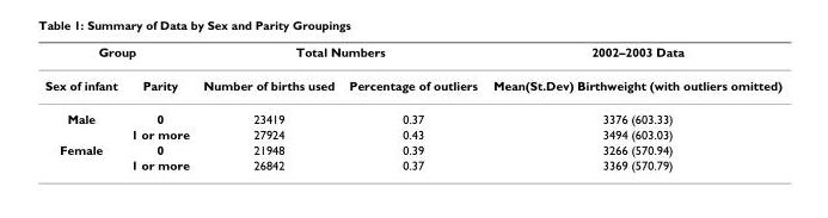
<table><thead><tr><td colspan="2">Group</td><td colspan="2">Total Numbers</td><td rowspan="2">2002–2003 Data Mean(St.Dev) Birthweight (with outliers omitted)</td></tr><tr><td>Sex of infant</td><td>Parity</td><td>Number of births used</td><td>Percentage of outliers</td></tr></thead><tbody><tr><td rowspan="2">Male</td><td>0</td><td>23419</td><td>0.37</td><td>3376 (603.33)</td></tr><tr><td>1 or more</td><td>27924</td><td>0.43</td><td>3494 (603.03)</td></tr><tr><td rowspan="2">Female</td><td>0</td><td>21948</td><td>0.39</td><td>3266 (570.94)</td></tr><tr><td>1 or more</td><td>26842</td><td>0.37</td><td>3369 (570.79)</td></tr></tbody></table>